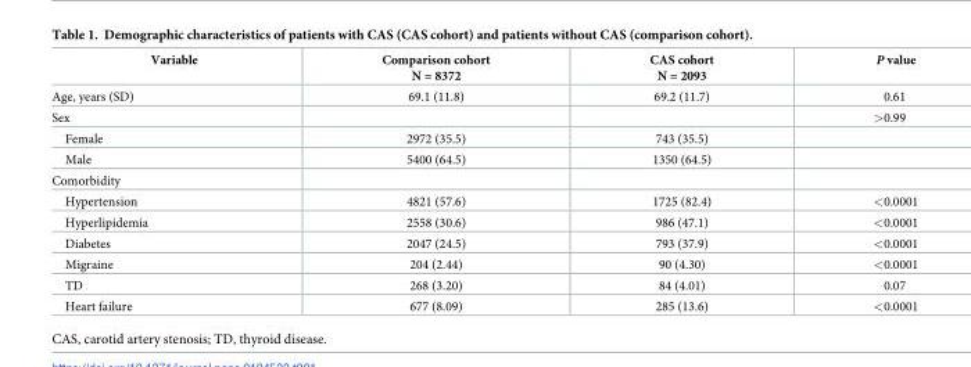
<table><thead><tr><td>Variable</td><td>Comparison cohort N = 8372</td><td>CAS cohort N = 2093</td><td>P value</td></tr></thead><tbody><tr><td>Age, years (SD)</td><td>69.1 (11.8)</td><td>69.2 (11.7)</td><td>0.61</td></tr><tr><td>Sex</td><td></td><td></td><td>&gt;0.99</td></tr><tr><td>Female</td><td>2972 (35.5)</td><td>743 (35.5)</td><td></td></tr><tr><td>Male</td><td>5400 (64.5)</td><td>1350 (64.5)</td><td></td></tr><tr><td colspan="4">Comorbidity</td></tr><tr><td>Hypertension</td><td>4821 (57.6)</td><td>1725 (82.4)</td><td>&lt;0.0001</td></tr><tr><td>Hyperlipidemia</td><td>2558 (30.6)</td><td>986 (47.1)</td><td>&lt;0.0001</td></tr><tr><td>Diabetes</td><td>2047 (24.5)</td><td>793 (37.9)</td><td>&lt;0.0001</td></tr><tr><td>Migraine</td><td>204 (2.44)</td><td>90 (4.30)</td><td>&lt;0.0001</td></tr><tr><td>TD</td><td>268 (3.20)</td><td>84 (4.01)</td><td>0.07</td></tr><tr><td>Heart failure</td><td>677 (8.09)</td><td>285 (13.6)</td><td>&lt;0.0001</td></tr></tbody></table>